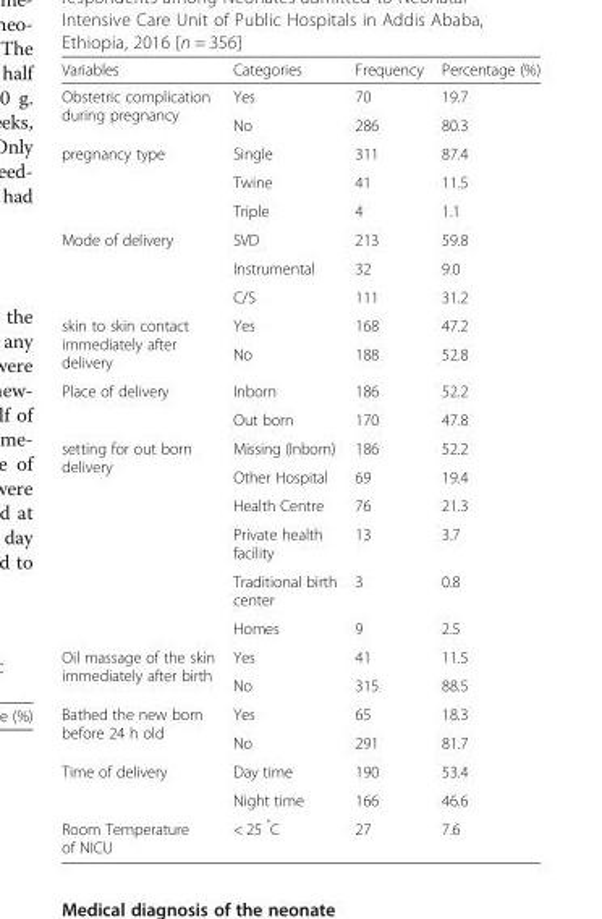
<table><thead><tr><td>Variables</td><td>Categories</td><td>Frequency</td><td>Percentage (%)</td></tr></thead><tbody><tr><td rowspan="2">Obstetric complication during pregnancy</td><td>Yes</td><td>70</td><td>19.7</td></tr><tr><td>No</td><td>286</td><td>80.3</td></tr><tr><td rowspan="3">pregnancy type</td><td>Single</td><td>311</td><td>87.4</td></tr><tr><td>Twine</td><td>41</td><td>11.5</td></tr><tr><td>Triple</td><td>4</td><td>1.1</td></tr><tr><td rowspan="3">Mode of delivery</td><td>SVD</td><td>213</td><td>59.8</td></tr><tr><td>Instrumental</td><td>32</td><td>9.0</td></tr><tr><td>C/S</td><td>111</td><td>31.2</td></tr><tr><td rowspan="2">skin to skin contact immediately after delivery</td><td>Yes</td><td>168</td><td>47.2</td></tr><tr><td>No</td><td>188</td><td>52.8</td></tr><tr><td rowspan="2">Place of delivery</td><td>Inborn</td><td>186</td><td>52.2</td></tr><tr><td>Out born</td><td>170</td><td>47.8</td></tr><tr><td rowspan="6">setting for out born delivery</td><td>Missing (Inborn)</td><td>186</td><td>52.2</td></tr><tr><td>Other Hospital</td><td>69</td><td>19.4</td></tr><tr><td>Health Centre</td><td>76</td><td>21.3</td></tr><tr><td>Private health facility</td><td>13</td><td>3.7</td></tr><tr><td>Traditional birth center</td><td>3</td><td>0.8</td></tr><tr><td>Homes</td><td>9</td><td>2.5</td></tr><tr><td rowspan="2">Oil massage of the skin immediately after birth</td><td>Yes</td><td>41</td><td>11.5</td></tr><tr><td>No</td><td>315</td><td>88.5</td></tr><tr><td rowspan="2">Bathed the new born before 24 h old</td><td>Yes</td><td>65</td><td>18.3</td></tr><tr><td>No</td><td>291</td><td>81.7</td></tr><tr><td rowspan="2">Time of delivery</td><td>Day time</td><td>190</td><td>53.4</td></tr><tr><td>Night time</td><td>166</td><td>46.6</td></tr><tr><td>Room Temperature of NICU</td><td>&lt; 25 <sup>°</sup>C</td><td>27</td><td>7.6</td></tr></tbody></table>